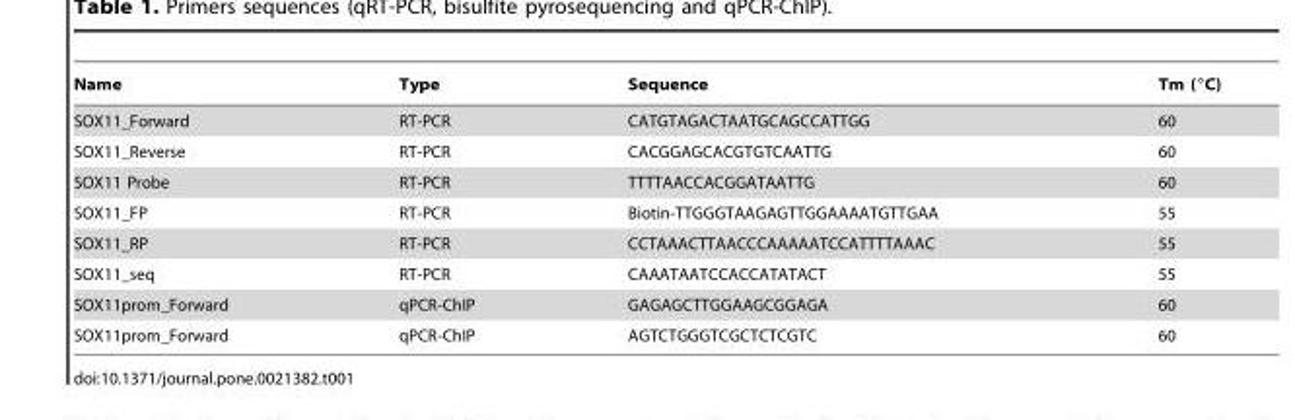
<table><thead><tr><td>Name</td><td>Type</td><td>Sequence</td><td>Tm (°C)</td></tr></thead><tbody><tr><td>SOX11_Forward</td><td>RT-PCR</td><td>CATGTAGACTAATGCAGCCATTGG</td><td>60</td></tr><tr><td>SOX11_Reverse</td><td>RT-PCR</td><td>CACGGAGCACGTGTCAATTG</td><td>60</td></tr><tr><td>SOX11 Probe</td><td>RT-PCR</td><td>TTTTAACCACGGATAATTG</td><td>60</td></tr><tr><td>SOX11_FP</td><td>RT-PCR</td><td>Biotin-TTGGGTAAGAGTTGGAAAATGTTGAA</td><td>55</td></tr><tr><td>SOX11_RP</td><td>RT-PCR</td><td>CCTAAACTTAACCCAAAAATCCATTTTAAAC</td><td>55</td></tr><tr><td>SOX11_seq</td><td>RT-PCR</td><td>CAAATAATCCACCATATACT</td><td>55</td></tr><tr><td>SOX11prom_Forward</td><td>qPCR-ChIP</td><td>GAGAGCTTGGAAGCGGAGA</td><td>60</td></tr><tr><td>SOX11prom_Forward</td><td>qPCR-ChIP</td><td>AGTCTGGGTCGCTCTCGTC</td><td>60</td></tr></tbody></table>